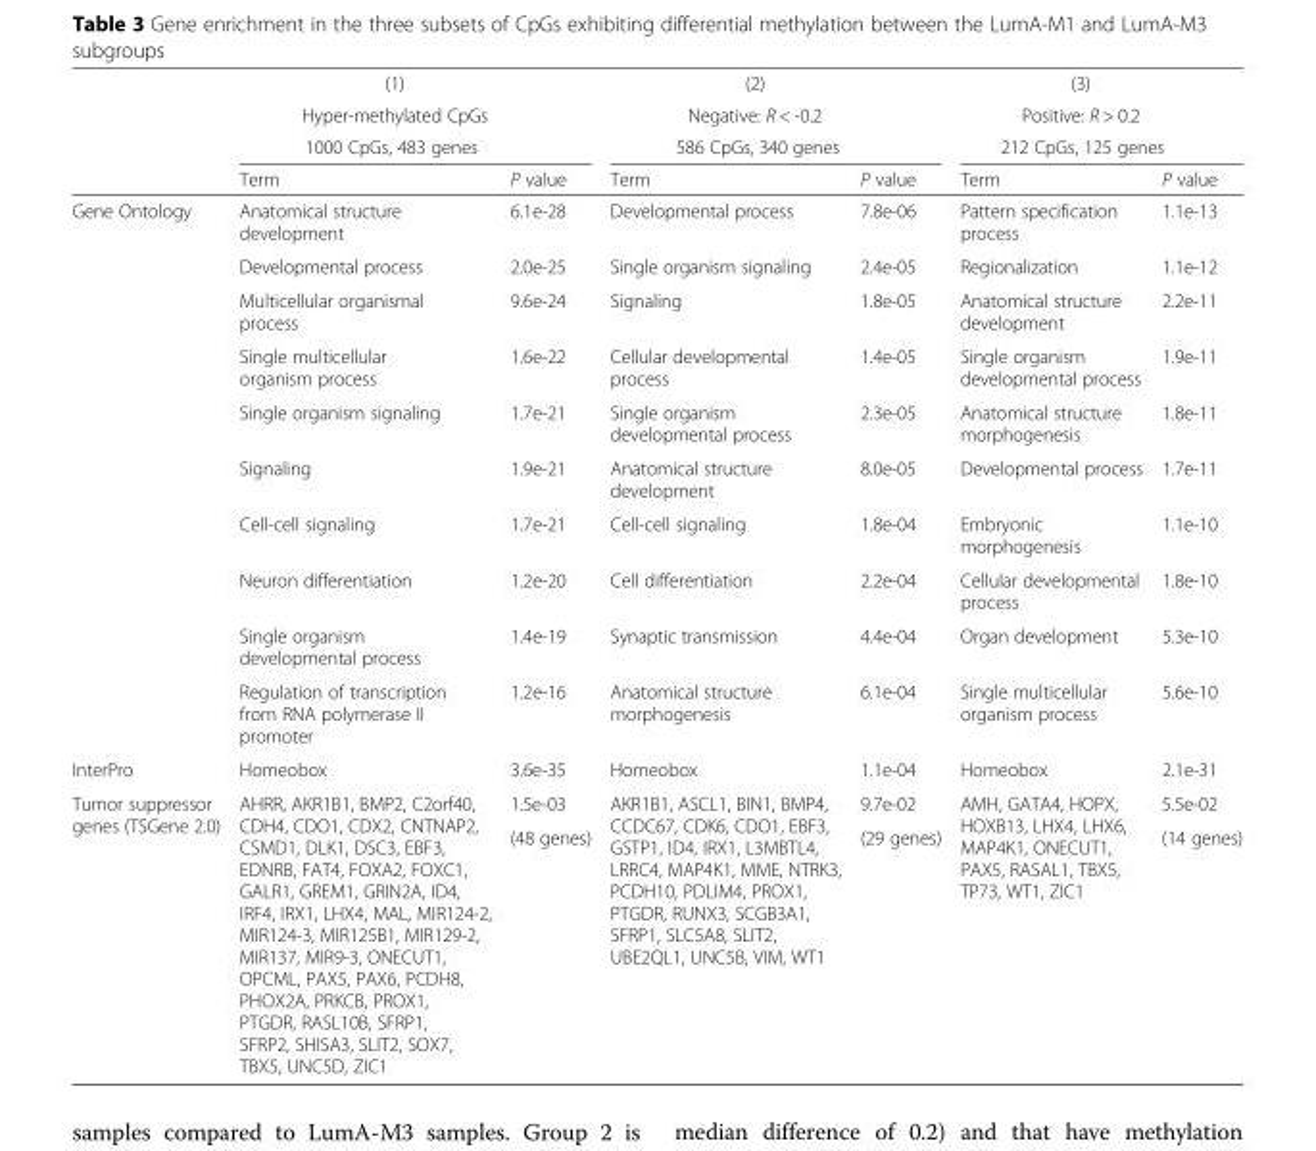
<table><thead><tr><td rowspan="4"></td><td rowspan="2">(1) Hyper-methylated CpGs</td><td rowspan="2"></td><td rowspan="2">(2) Negative: R &lt; -0.2</td><td rowspan="2"></td><td rowspan="2">(3) Positive: R &gt; 0.2</td><td rowspan="2"></td></tr><tr></tr><tr><td colspan="2">1000 CpGs, 483 genes</td><td colspan="2">586 CpGs, 340 genes</td><td colspan="2">212 CpGs, 125 genes</td></tr><tr><td>Term</td><td>P value</td><td>Term</td><td>P value</td><td>Term</td><td>P value</td></tr></thead><tbody><tr><td rowspan="10">Gene Ontology</td><td>Anatomical structure development</td><td>6.1e-28</td><td>Developmental process</td><td>7.8e-06</td><td>Pattern specification process</td><td>1.1e-13</td></tr><tr><td>Developmental process</td><td>2.0e-25</td><td>Single organism signaling</td><td>2.4e-05</td><td>Regionalization</td><td>1.1e-12</td></tr><tr><td>Multicellular organismal process</td><td>9.6e-24</td><td>Signaling</td><td>1.8e-05</td><td>Anatomical structure development</td><td>2.2e-11</td></tr><tr><td>Single multicellular organism process</td><td>1.6e-22</td><td>Cellular developmental process</td><td>1.4e-05</td><td>Single organism developmental process</td><td>1.9e-11</td></tr><tr><td>Single organism signaling</td><td>1.7e-21</td><td>Single organism developmental process</td><td>2.3e-05</td><td>Anatomical structure morphogenesis</td><td>1.8e-11</td></tr><tr><td>Signaling</td><td>1.9e-21</td><td>Anatomical structure development</td><td>8.0e-05</td><td>Developmental process</td><td>1.7e-11</td></tr><tr><td>Cell-cell signaling</td><td>1.7e-21</td><td>Cell-cell signaling</td><td>1.8e-04</td><td>Embryonic morphogenesis</td><td>1.1e-10</td></tr><tr><td>Neuron differentiation</td><td>1.2e-20</td><td>Cell differentiation</td><td>2.2e-04</td><td>Cellular developmental process</td><td>1.8e-10</td></tr><tr><td>Single organism developmental process</td><td>1.4e-19</td><td>Synaptic transmission</td><td>4.4e-04</td><td>Organ development</td><td>5.3e-10</td></tr><tr><td>Regulation of transcription from RNA polymerase II promoter</td><td>1.2e-16</td><td>Anatomical structure morphogenesis</td><td>6.1e-04</td><td>Single multicellular organism process</td><td>5.6e-10</td></tr><tr><td>InterPro</td><td>Homeobox</td><td>3.6e-35</td><td>Homeobox</td><td>1.1e-04</td><td>Homeobox</td><td>2.1e-31</td></tr><tr><td rowspan="2">Tumor suppressor genes (TSGene 2.0)</td><td rowspan="2">AHRR, AKR1B1, BMP2, C2orf40, CDH4, CDO1, CDX2, CNTNAP2, CSMD1, DLK1, DSC3, EBF3, EDNRB, FAT4, FOXA2, FOXC1, GALR1, GREM1, GRIN2A, ID4, IRF4, IRX1, LHX4, MAL, MIR124-2, MIR124-3, MIR125B1, MIR129-2, MIR137, MIR9-3, ONECUT1, OPCML, PAX5, PAX6, PCDH8, PHOX2A, PRKCB, PROX1, PTGDR, RASL10B, SFRP1, SFRP2, SHISA3, SLIT2, SOX7, TBX5, UNC5D, ZIC1</td><td>1.5e-03</td><td rowspan="2">AKR1B1, ASCL1, BIN1, BMP4, CCDC67, CDK6, CDO1, EBF3, GSTP1, ID4, IRX1, L3MBTL4, LRRC4, MAP4K1, MME, NTRK3, PCDH10, PDLIM4, PROX1, PTGDR, RUNX3, SCGB3A1, SFRP1, SLC5A8, SLIT2, UBE2QL1, UNC5B, VIM, WT1</td><td>9.7e-02</td><td rowspan="2">AMH, GATA4, HOPX, HOXB13, LHX4, LHX6, MAP4K1, ONECUT1, PAX5, RASAL1, TBX5, TP73, WT1, ZIC1</td><td>5.5e-02</td></tr><tr><td>(48 genes)</td><td>(29 genes)</td><td>(14 genes)</td></tr></tbody></table>